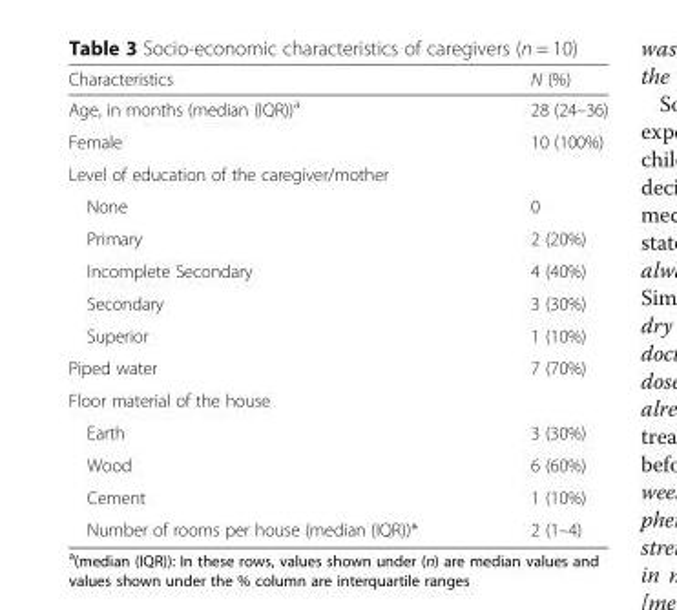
<table><thead><tr><td>Characteristics</td><td>N (%)</td></tr></thead><tbody><tr><td>Age, in months (median (IQR))<sup>a</sup></td><td>28 (24–36)</td></tr><tr><td>Female</td><td>10 (100%)</td></tr><tr><td colspan="2">Level of education of the caregiver/mother</td></tr><tr><td>None</td><td>0</td></tr><tr><td>Primary</td><td>2 (20%)</td></tr><tr><td>Incomplete Secondary</td><td>4 (40%)</td></tr><tr><td>Secondary</td><td>3 (30%)</td></tr><tr><td>Superior</td><td>1 (10%)</td></tr><tr><td>Piped water</td><td>7 (70%)</td></tr><tr><td colspan="2">Floor material of the house</td></tr><tr><td>Earth</td><td>3 (30%)</td></tr><tr><td>Wood</td><td>6 (60%)</td></tr><tr><td>Cement</td><td>1 (10%)</td></tr><tr><td>Number of rooms per house (median (IQR))*</td><td>2 (1–4)</td></tr></tbody></table>